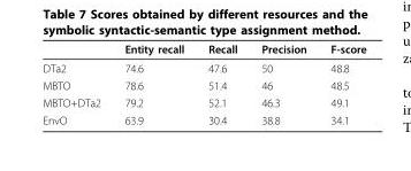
<table><thead><tr><td></td><td>Entity recall</td><td>Recall</td><td>Precision</td><td>F-score</td></tr></thead><tbody><tr><td>DTa2</td><td>74.6</td><td>47.6</td><td>50</td><td>48.8</td></tr><tr><td>MBTO</td><td>78.6</td><td>51.4</td><td>46</td><td>48.5</td></tr><tr><td>MBTO+DTa2</td><td>79.2</td><td>52.1</td><td>46.3</td><td>49.1</td></tr><tr><td>EnvO</td><td>63.9</td><td>30.4</td><td>38.8</td><td>34.1</td></tr></tbody></table>